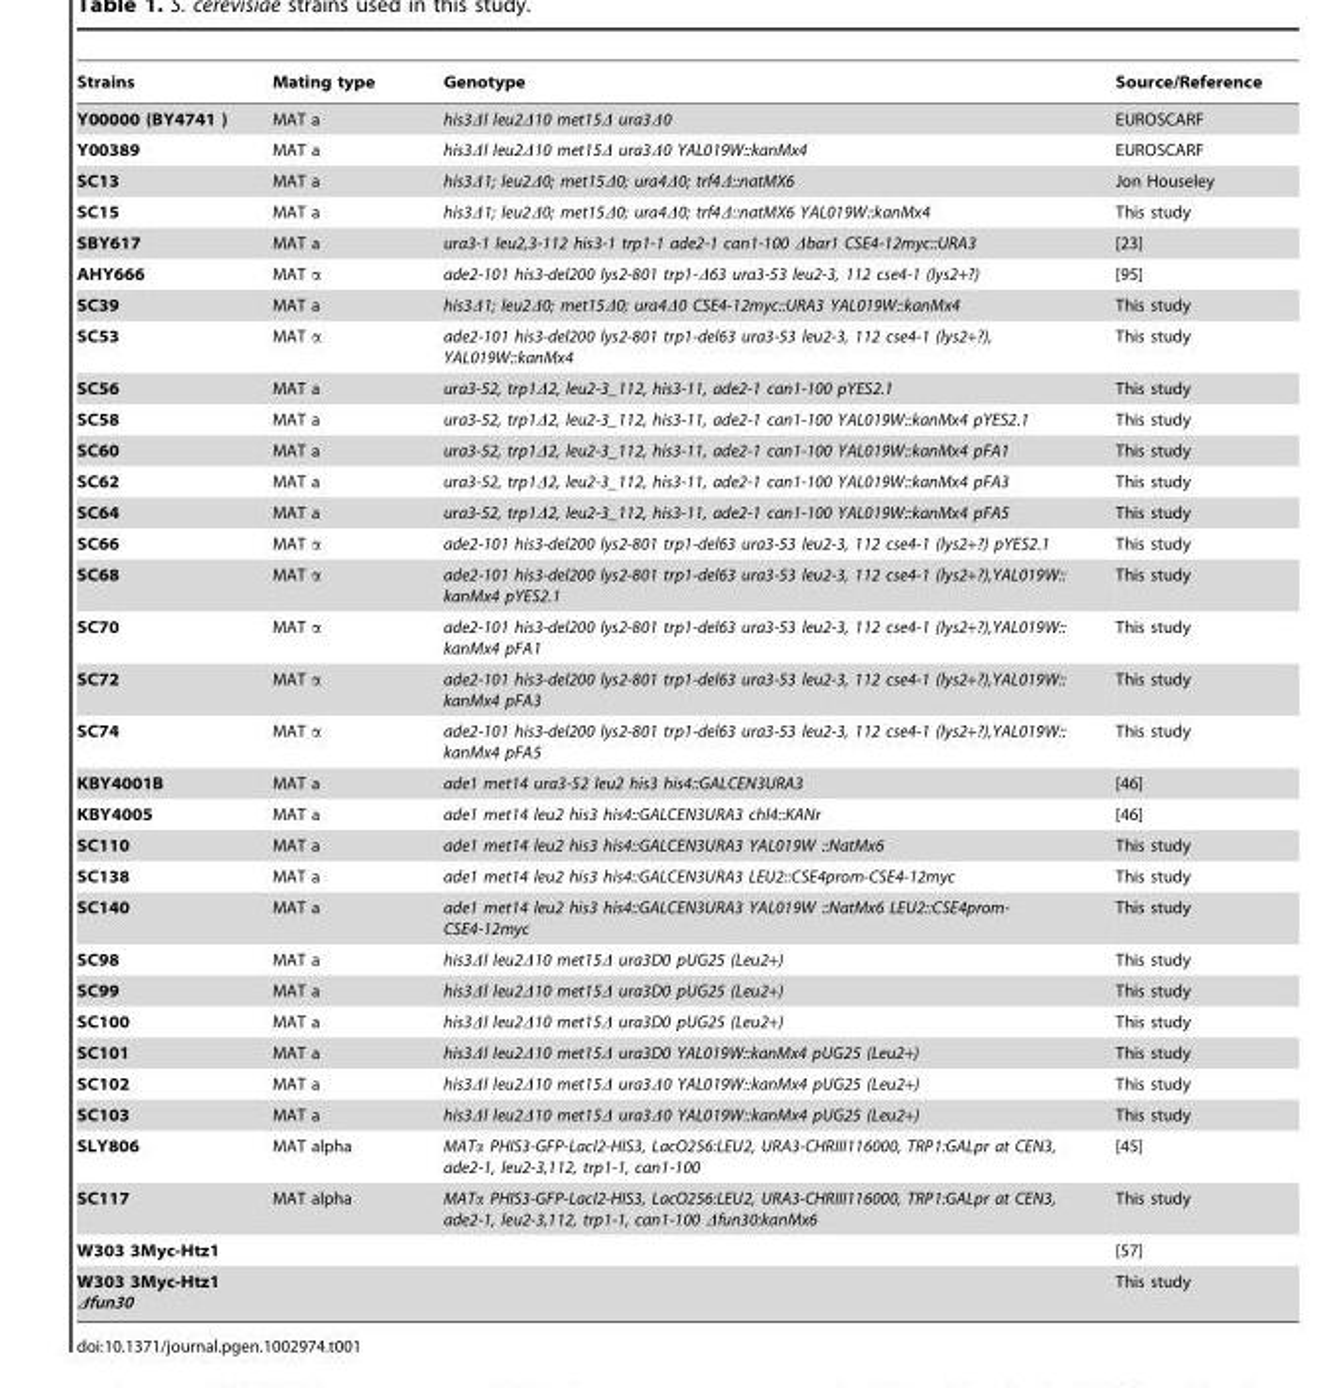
<table><thead><tr><td>Strains</td><td>Mating type</td><td>Genotype</td><td>Source/Reference</td></tr></thead><tbody><tr><td>Y00000 (BY4741 )</td><td>MAT a</td><td>his3Δl leu2Δ10 met15Δ ura3Δ0</td><td>EUROSCARF</td></tr><tr><td>Y00389</td><td>MAT a</td><td>his3Δl leu2Δ10 met15Δ ura3Δ0 YAL019W::kanMx4</td><td>EUROSCARF</td></tr><tr><td>SC13</td><td>MAT a</td><td>his3Δ1; leu2Δ0; met15Δ0; ura4Δ0; trf4Δ::natMX6</td><td>Jon Houseley</td></tr><tr><td>SC15</td><td>MAT a</td><td>his3Δ1; leu2Δ0; met15Δ0; ura4Δ0; trf4Δ::natMX6 YAL019W::kanMx4</td><td>This study</td></tr><tr><td>SBY617</td><td>MAT a</td><td>ura3-1 leu2,3-112 his3-1 trp1-1 ade2-1 can1-100 Δbar1 CSE4-12myc::URA3</td><td>[23]</td></tr><tr><td>AHY666</td><td>MAT α</td><td>ade2-101 his3-del200 lys2-801 trp1-Δ63 ura3-53 leu2-3, 112 cse4-1 (lys2+?)</td><td>[95]</td></tr><tr><td>SC39</td><td>MAT a</td><td>his3Δ1; leu2Δ0; met15Δ0; ura4Δ0 CSE4-12myc::URA3 YAL019W::kanMx4</td><td>This study</td></tr><tr><td>SC53</td><td>MAT α</td><td>ade2-101 his3-del200 lys2-801 trp1-del63 ura3-53 leu2-3, 112 cse4-1 (lys2+?), YAL019W::kanMx4</td><td>This study</td></tr><tr><td>SC56</td><td>MAT a</td><td>ura3-52, trp1Δ2, leu2-3_112, his3-11, ade2-1 can1-100 pYES2.1</td><td>This study</td></tr><tr><td>SC58</td><td>MAT a</td><td>ura3-52, trp1Δ2, leu2-3_112, his3-11, ade2-1 can1-100 YAL019W::kanMx4 pYES2.1</td><td>This study</td></tr><tr><td>SC60</td><td>MAT a</td><td>ura3-52, trp1Δ2, leu2-3_112, his3-11, ade2-1 can1-100 YAL019W::kanMx4 pFA1</td><td>This study</td></tr><tr><td>SC62</td><td>MAT a</td><td>ura3-52, trp1Δ2, leu2-3_112, his3-11, ade2-1 can1-100 YAL019W::kanMx4 pFA3</td><td>This study</td></tr><tr><td>SC64</td><td>MAT a</td><td>ura3-52, trp1Δ2, leu2-3_112, his3-11, ade2-1 can1-100 YAL019W::kanMx4 pFA5</td><td>This study</td></tr><tr><td>SC66</td><td>MAT α</td><td>ade2-101 his3-del200 lys2-801 trp1-del63 ura3-53 leu2-3, 112 cse4-1 (lys2+?) pYES2.1</td><td>This study</td></tr><tr><td>SC68</td><td>MAT α</td><td>ade2-101 his3-del200 lys2-801 trp1-del63 ura3-53 leu2-3, 112 cse4-1 (lys2+?),YAL019W:: kanMx4 pYES2.1</td><td>This study</td></tr><tr><td>SC70</td><td>MAT α</td><td>ade2-101 his3-del200 lys2-801 trp1-del63 ura3-53 leu2-3, 112 cse4-1 (lys2+?),YAL019W:: kanMx4 pFA1</td><td>This study</td></tr><tr><td>SC72</td><td>MAT α</td><td>ade2-101 his3-del200 lys2-801 trp1-del63 ura3-53 leu2-3, 112 cse4-1 (lys2+?),YAL019W:: kanMx4 pFA3</td><td>This study</td></tr><tr><td>SC74</td><td>MAT α</td><td>ade2-101 his3-del200 lys2-801 trp1-del63 ura3-53 leu2-3, 112 cse4-1 (lys2+?),YAL019W:: kanMx4 pFA5</td><td>This study</td></tr><tr><td>KBY4001B</td><td>MAT a</td><td>ade1 met14 ura3-52 leu2 his3 his4::GALCEN3URA3</td><td>[46]</td></tr><tr><td>KBY4005</td><td>MAT a</td><td>ade1 met14 leu2 his3 his4::GALCEN3URA3 chl4::KANr</td><td>[46]</td></tr><tr><td>SC110</td><td>MAT a</td><td>ade1 met14 leu2 his3 his4::GALCEN3URA3 YAL019W ::NatMx6</td><td>This study</td></tr><tr><td>SC138</td><td>MAT a</td><td>ade1 met14 leu2 his3 his4::GALCEN3URA3 LEU2::CSE4prom-CSE4-12myc</td><td>This study</td></tr><tr><td>SC140</td><td>MAT a</td><td>ade1 met14 leu2 his3 his4::GALCEN3URA3 YAL019W ::NatMx6 LEU2::CSE4prom- CSE4-12myc</td><td>This study</td></tr><tr><td>SC98</td><td>MAT a</td><td>his3Δl leu2Δ10 met15Δ ura3D0 pUG25 (Leu2+)</td><td>This study</td></tr><tr><td>SC99</td><td>MAT a</td><td>his3Δl leu2Δ10 met15Δ ura3D0 pUG25 (Leu2+)</td><td>This study</td></tr><tr><td>SC100</td><td>MAT a</td><td>his3Δl leu2Δ10 met15Δ ura3D0 pUG25 (Leu2+)</td><td>This study</td></tr><tr><td>SC101</td><td>MAT a</td><td>his3Δl leu2Δ10 met15Δ ura3D0 YAL019W::kanMx4 pUG25 (Leu2+)</td><td>This study</td></tr><tr><td>SC102</td><td>MAT a</td><td>his3Δl leu2Δ10 met15Δ ura3Δ0 YAL019W::kanMx4 pUG25 (Leu2+)</td><td>This study</td></tr><tr><td>SC103</td><td>MAT a</td><td>his3Δl leu2Δ10 met15Δ ura3Δ0 YAL019W::kanMx4 pUG25 (Leu2+)</td><td>This study</td></tr><tr><td>SLY806</td><td>MAT alpha</td><td>MATα PHIS3-GFP-LacI2-HIS3, LacO256:LEU2, URA3-CHRIII116000, TRP1:GALpr at CEN3, ade2-1, leu2-3,112, trp1-1, can1-100</td><td>[45]</td></tr><tr><td>SC117</td><td>MAT alpha</td><td>MATα PHIS3-GFP-LacI2-HIS3, LacO256:LEU2, URA3-CHRIII116000, TRP1:GALpr at CEN3, ade2-1, leu2-3,112, trp1-1, can1-100 Δfun30:kanMx6</td><td>This study</td></tr><tr><td>W303 3Myc-Htz1</td><td></td><td></td><td>[57]</td></tr><tr><td>W303 3Myc-Htz1 Δfun30</td><td></td><td></td><td>This study</td></tr></tbody></table>